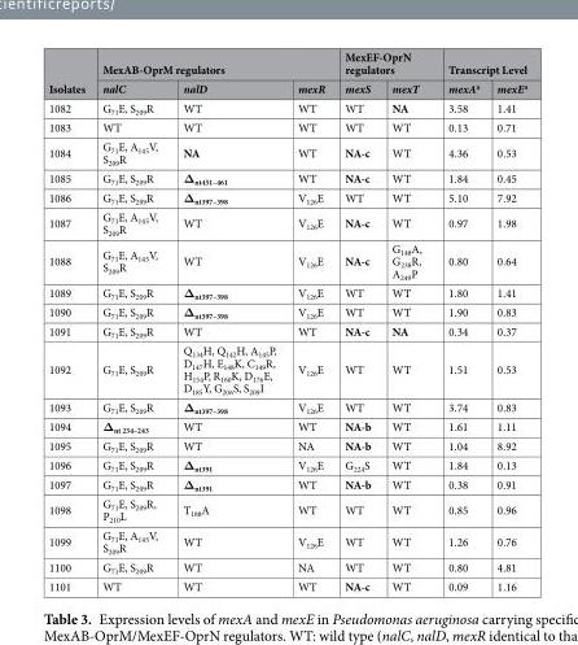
<table><thead><tr><td rowspan="2">Isolates</td><td colspan="3">MexAB-OprM regulators</td><td colspan="2">MexEF-OprN regulators</td><td colspan="2">Transcript Level</td></tr><tr><td>nalC</td><td>nalD</td><td>mexR</td><td>mexS</td><td>mexT</td><td>mexA<sup>a</sup></td><td>mexE<sup>a</sup></td></tr></thead><tbody><tr><td>1082</td><td>G<sub>71</sub>E, S<sub>209</sub>R</td><td>WT</td><td>WT</td><td>WT</td><td>NA</td><td>3.58</td><td>1.41</td></tr><tr><td>1083</td><td>WT</td><td>WT</td><td>WT</td><td>WT</td><td>WT</td><td>0.13</td><td>0.71</td></tr><tr><td>1084</td><td>G<sub>71</sub>E, A<sub>145</sub>V, S<sub>209</sub>R</td><td>NA</td><td>WT</td><td>NA-c</td><td>WT</td><td>4.36</td><td>0.53</td></tr><tr><td>1085</td><td>G<sub>71</sub>E, S<sub>209</sub>R</td><td>Δ<sub>nt451–461</sub></td><td>WT</td><td>NA-c</td><td>WT</td><td>1.84</td><td>0.45</td></tr><tr><td>1086</td><td>G<sub>71</sub>E, S<sub>209</sub>R</td><td>Δ<sub>nt397–398</sub></td><td>V<sub>126</sub>E</td><td>WT</td><td>WT</td><td>5.10</td><td>7.92</td></tr><tr><td>1087</td><td>G<sub>71</sub>E, A<sub>145</sub>V, S<sub>209</sub>R</td><td>WT</td><td>V<sub>126</sub>E</td><td>NA-c</td><td>WT</td><td>0.97</td><td>1.98</td></tr><tr><td>1088</td><td>G<sub>71</sub>E, A<sub>145</sub>V, S<sub>209</sub>R</td><td>WT</td><td>V<sub>126</sub>E</td><td>NA-c</td><td>G<sub>148</sub>A, G<sub>238</sub>R, A<sub>249</sub>P</td><td>0.80</td><td>0.64</td></tr><tr><td>1089</td><td>G<sub>71</sub>E, S<sub>209</sub>R</td><td>Δ<sub>nt397–398</sub></td><td>V<sub>126</sub>E</td><td>WT</td><td>WT</td><td>1.80</td><td>1.41</td></tr><tr><td>1090</td><td>G<sub>71</sub>E, S<sub>209</sub>R</td><td>Δ<sub>nt397–398</sub></td><td>V<sub>126</sub>E</td><td>WT</td><td>WT</td><td>1.90</td><td>0.83</td></tr><tr><td>1091</td><td>G<sub>71</sub>E, S<sub>209</sub>R</td><td>WT</td><td>WT</td><td>NA-c</td><td>NA</td><td>0.34</td><td>0.37</td></tr><tr><td>1092</td><td>G<sub>71</sub>E, S<sub>209</sub>R</td><td>Q<sub>134</sub>H, Q<sub>142</sub>H, A<sub>145</sub>P, D<sub>147</sub>H, E<sub>148</sub>K, C<sub>149</sub>R, H<sub>154</sub>P, R<sub>160</sub>K, D<sub>176</sub>E, D<sub>185</sub>Y, G<sub>206</sub>S, S<sub>209</sub>I</td><td>V<sub>126</sub>E</td><td>WT</td><td>WT</td><td>1.51</td><td>0.53</td></tr><tr><td>1093</td><td>G<sub>71</sub>E, S<sub>209</sub>R</td><td>Δ<sub>nt397–398</sub></td><td>V<sub>126</sub>E</td><td>WT</td><td>WT</td><td>3.74</td><td>0.83</td></tr><tr><td>1094</td><td>Δ<sub>nt 234–243</sub></td><td>WT</td><td>WT</td><td>NA-b</td><td>WT</td><td>1.61</td><td>1.11</td></tr><tr><td>1095</td><td>G<sub>71</sub>E, S<sub>209</sub>R</td><td>WT</td><td>NA</td><td>NA-b</td><td>WT</td><td>1.04</td><td>8.92</td></tr><tr><td>1096</td><td>G<sub>71</sub>E, S<sub>209</sub>R</td><td>Δ<sub>nt391</sub></td><td>V<sub>126</sub>E</td><td>G<sub>224</sub>S</td><td>WT</td><td>1.84</td><td>0.13</td></tr><tr><td>1097</td><td>G<sub>71</sub>E, S<sub>209</sub>R</td><td>Δ<sub>nt391</sub></td><td>WT</td><td>NA-b</td><td>WT</td><td>0.38</td><td>0.91</td></tr><tr><td>1098</td><td>G<sub>71</sub>E, S<sub>209</sub>R, P<sub>210</sub>L</td><td>T<sub>188</sub>A</td><td>WT</td><td>WT</td><td>WT</td><td>0.85</td><td>0.96</td></tr><tr><td>1099</td><td>G<sub>71</sub>E, A<sub>145</sub>V, S<sub>209</sub>R</td><td>WT</td><td>V<sub>126</sub>E</td><td>WT</td><td>WT</td><td>1.26</td><td>0.76</td></tr><tr><td>1100</td><td>G<sub>71</sub>E, S<sub>209</sub>R</td><td>WT</td><td>NA</td><td>WT</td><td>WT</td><td>0.80</td><td>4.81</td></tr><tr><td>1101</td><td>WT</td><td>WT</td><td>WT</td><td>NA-c</td><td>WT</td><td>0.09</td><td>1.16</td></tr></tbody></table>